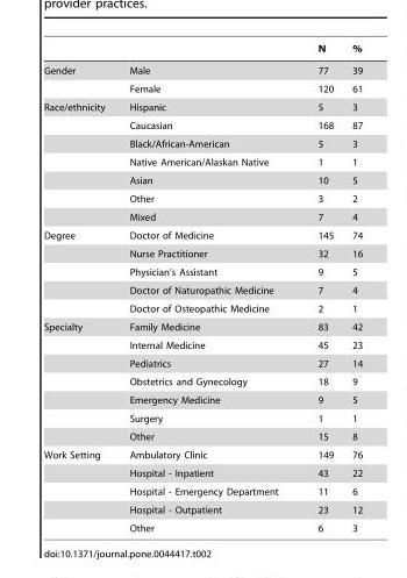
<table><thead><tr><td></td><td></td><td>N</td><td>%</td></tr></thead><tbody><tr><td rowspan="2">Gender</td><td>Male</td><td>77</td><td>39</td></tr><tr><td>Female</td><td>120</td><td>61</td></tr><tr><td rowspan="7">Race/ethnicity</td><td>Hispanic</td><td>5</td><td>3</td></tr><tr><td>Caucasian</td><td>168</td><td>87</td></tr><tr><td>Black/African-American</td><td>5</td><td>3</td></tr><tr><td>Native American/Alaskan Native</td><td>1</td><td>1</td></tr><tr><td>Asian</td><td>10</td><td>5</td></tr><tr><td>Other</td><td>3</td><td>2</td></tr><tr><td>Mixed</td><td>7</td><td>4</td></tr><tr><td rowspan="5">Degree</td><td>Doctor of Medicine</td><td>145</td><td>74</td></tr><tr><td>Nurse Practitioner</td><td>32</td><td>16</td></tr><tr><td>Physician’s Assistant</td><td>9</td><td>5</td></tr><tr><td>Doctor of Naturopathic Medicine</td><td>7</td><td>4</td></tr><tr><td>Doctor of Osteopathic Medicine</td><td>2</td><td>1</td></tr><tr><td rowspan="7">Specialty</td><td>Family Medicine</td><td>83</td><td>42</td></tr><tr><td>Internal Medicine</td><td>45</td><td>23</td></tr><tr><td>Pediatrics</td><td>27</td><td>14</td></tr><tr><td>Obstetrics and Gynecology</td><td>18</td><td>9</td></tr><tr><td>Emergency Medicine</td><td>9</td><td>5</td></tr><tr><td>Surgery</td><td>1</td><td>1</td></tr><tr><td>Other</td><td>15</td><td>8</td></tr><tr><td rowspan="5">Work Setting</td><td>Ambulatory Clinic</td><td>149</td><td>76</td></tr><tr><td>Hospital - Inpatient</td><td>43</td><td>22</td></tr><tr><td>Hospital - Emergency Department</td><td>11</td><td>6</td></tr><tr><td>Hospital - Outpatient</td><td>23</td><td>12</td></tr><tr><td>Other</td><td>6</td><td>3</td></tr></tbody></table>